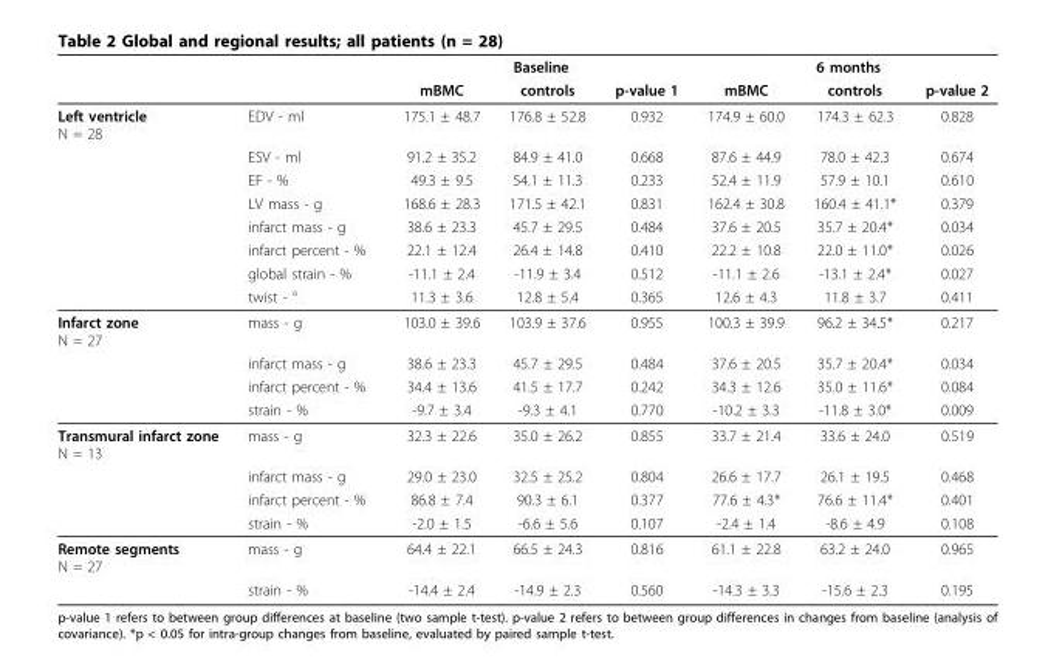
<table><thead><tr><td rowspan="2"></td><td rowspan="2"></td><td colspan="3">Baseline</td><td colspan="3">6 months</td></tr><tr><td>mBMC</td><td>controls</td><td>p-value 1</td><td>mBMC</td><td>controls</td><td>p-value 2</td></tr></thead><tbody><tr><td rowspan="8">Left ventricle N = 28</td><td>EDV - ml</td><td>175.1 ± 48.7</td><td>176.8 ± 52.8</td><td>0.932</td><td>174.9 ± 60.0</td><td>174.3 ± 62.3</td><td>0.828</td></tr><tr><td>ESV - ml</td><td>91.2 ± 35.2</td><td>84.9 ± 41.0</td><td>0.668</td><td>87.6 ± 44.9</td><td>78.0 ± 42.3</td><td>0.674</td></tr><tr><td>EF - %</td><td>49.3 ± 9.5</td><td>54.1 ± 11.3</td><td>0.233</td><td>52.4 ± 11.9</td><td>57.9 ± 10.1</td><td>0.610</td></tr><tr><td>LV mass - g</td><td>168.6 ± 28.3</td><td>171.5 ± 42.1</td><td>0.831</td><td>162.4 ± 30.8</td><td>160.4 ± 41.1*</td><td>0.379</td></tr><tr><td>infarct mass - g</td><td>38.6 ± 23.3</td><td>45.7 ± 29.5</td><td>0.484</td><td>37.6 ± 20.5</td><td>35.7 ± 20.4*</td><td>0.034</td></tr><tr><td>infarct percent - %</td><td>22.1 ± 12.4</td><td>26.4 ± 14.8</td><td>0.410</td><td>22.2 ± 10.8</td><td>22.0 ± 11.0*</td><td>0.026</td></tr><tr><td>global strain - %</td><td>-11.1 ± 2.4</td><td>-11.9 ± 3.4</td><td>0.512</td><td>-11.1 ± 2.6</td><td>-13.1 ± 2.4*</td><td>0.027</td></tr><tr><td>twist - °</td><td>11.3 ± 3.6</td><td>12.8 ± 5.4</td><td>0.365</td><td>12.6 ± 4.3</td><td>11.8 ± 3.7</td><td>0.411</td></tr><tr><td rowspan="4">Infarct zone N = 27</td><td>mass - g</td><td>103.0 ± 39.6</td><td>103.9 ± 37.6</td><td>0.955</td><td>100.3 ± 39.9</td><td>96.2 ± 34.5*</td><td>0.217</td></tr><tr><td>infarct mass - g</td><td>38.6 ± 23.3</td><td>45.7 ± 29.5</td><td>0.484</td><td>37.6 ± 20.5</td><td>35.7 ± 20.4*</td><td>0.034</td></tr><tr><td>infarct percent - %</td><td>34.4 ± 13.6</td><td>41.5 ± 17.7</td><td>0.242</td><td>34.3 ± 12.6</td><td>35.0 ± 11.6*</td><td>0.084</td></tr><tr><td>strain - %</td><td>-9.7 ± 3.4</td><td>-9.3 ± 4.1</td><td>0.770</td><td>-10.2 ± 3.3</td><td>-11.8 ± 3.0*</td><td>0.009</td></tr><tr><td rowspan="4">Transmural infarct zone N = 13</td><td>mass - g</td><td>32.3 ± 22.6</td><td>35.0 ± 26.2</td><td>0.855</td><td>33.7 ± 21.4</td><td>33.6 ± 24.0</td><td>0.519</td></tr><tr><td>infarct mass - g</td><td>29.0 ± 23.0</td><td>32.5 ± 25.2</td><td>0.804</td><td>26.6 ± 17.7</td><td>26.1 ± 19.5</td><td>0.468</td></tr><tr><td>infarct percent - %</td><td>86.8 ± 7.4</td><td>90.3 ± 6.1</td><td>0.377</td><td>77.6 ± 4.3*</td><td>76.6 ± 11.4*</td><td>0.401</td></tr><tr><td>strain - %</td><td>-2.0 ± 1.5</td><td>-6.6 ± 5.6</td><td>0.107</td><td>-2.4 ± 1.4</td><td>-8.6 ± 4.9</td><td>0.108</td></tr><tr><td rowspan="2">Remote segments N = 27</td><td>mass - g</td><td>64.4 ± 22.1</td><td>66.5 ± 24.3</td><td>0.816</td><td>61.1 ± 22.8</td><td>63.2 ± 24.0</td><td>0.965</td></tr><tr><td>strain - %</td><td>-14.4 ± 2.4</td><td>-14.9 ± 2.3</td><td>0.560</td><td>-14.3 ± 3.3</td><td>-15.6 ± 2.3</td><td>0.195</td></tr></tbody></table>